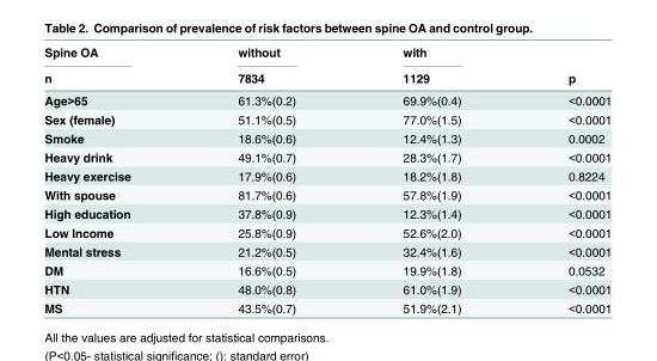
<table><thead><tr><td rowspan="2">Spine OA n</td><td rowspan="2">without 7834</td><td rowspan="2">with 1129</td><td rowspan="2">p</td></tr><tr></tr></thead><tbody><tr><td>Age&gt;65</td><td>61.3%(0.2)</td><td>69.9%(0.4)</td><td>&lt;0.0001</td></tr><tr><td>Sex (female)</td><td>51.1%(0.5)</td><td>77.0%(1.5)</td><td>&lt;0.0001</td></tr><tr><td>Smoke</td><td>18.6%(0.6)</td><td>12.4%(1.3)</td><td>0.0002</td></tr><tr><td>Heavy drink</td><td>49.1%(0.7)</td><td>28.3%(1.7)</td><td>&lt;0.0001</td></tr><tr><td>Heavy exercise</td><td>17.9%(0.6)</td><td>18.2%(1.8)</td><td>0.8224</td></tr><tr><td>With spouse</td><td>81.7%(0.6)</td><td>57.8%(1.9)</td><td>&lt;0.0001</td></tr><tr><td>High education</td><td>37.8%(0.9)</td><td>12.3%(1.4)</td><td>&lt;0.0001</td></tr><tr><td>Low Income</td><td>25.8%(0.9)</td><td>52.6%(2.0)</td><td>&lt;0.0001</td></tr><tr><td>Mental stress</td><td>21.2%(0.5)</td><td>32.4%(1.6)</td><td>&lt;0.0001</td></tr><tr><td>DM</td><td>16.6%(0.5)</td><td>19.9%(1.8)</td><td>0.0532</td></tr><tr><td>HTN</td><td>48.0%(0.8)</td><td>61.0%(1.9)</td><td>&lt;0.0001</td></tr><tr><td>MS</td><td>43.5%(0.7)</td><td>51.9%(2.1)</td><td>&lt;0.0001</td></tr></tbody></table>